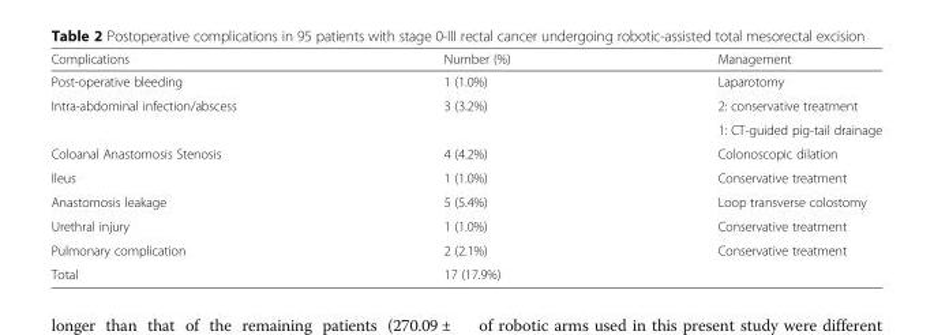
<table><thead><tr><td>Complications</td><td>Number (%)</td><td>Management</td></tr></thead><tbody><tr><td>Post-operative bleeding</td><td>1 (1.0%)</td><td>Laparotomy</td></tr><tr><td rowspan="2">Intra-abdominal infection/abscess</td><td rowspan="2">3 (3.2%)</td><td>2: conservative treatment</td></tr><tr><td>1: CT-guided pig-tail drainage</td></tr><tr><td>Coloanal Anastomosis Stenosis</td><td>4 (4.2%)</td><td>Colonoscopic dilation</td></tr><tr><td>Ileus</td><td>1 (1.0%)</td><td>Conservative treatment</td></tr><tr><td>Anastomosis leakage</td><td>5 (5.4%)</td><td>Loop transverse colostomy</td></tr><tr><td>Urethral injury</td><td>1 (1.0%)</td><td>Conservative treatment</td></tr><tr><td>Pulmonary complication</td><td>2 (2.1%)</td><td>Conservative treatment</td></tr><tr><td>Total</td><td>17 (17.9%)</td><td></td></tr></tbody></table>